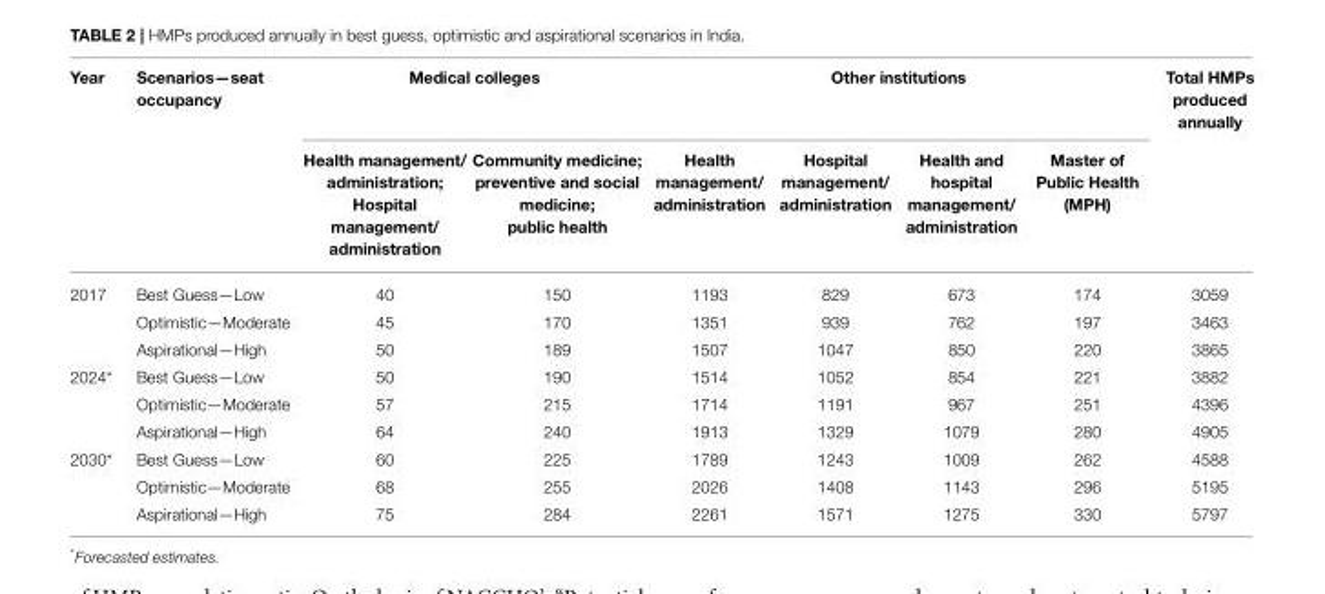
<table><thead><tr><td rowspan="2">Year</td><td rowspan="2">Scenarios—seat occupancy</td><td colspan="2">Medical colleges</td><td colspan="4">Other institutions</td><td rowspan="2">Total HMPs produced annually</td></tr><tr><td>Health management/ administration; Hospital management/ administration</td><td>Community medicine; preventive and social medicine; public health</td><td>Health management/ administration</td><td>Hospital management/ administration</td><td>Health and hospital management/ administration</td><td>Master of Public Health (MPH)</td></tr></thead><tbody><tr><td rowspan="3">2017</td><td>Best Guess—Low</td><td>40</td><td>150</td><td>1193</td><td>829</td><td>673</td><td>174</td><td>3059</td></tr><tr><td>Optimistic—Moderate</td><td>45</td><td>170</td><td>1351</td><td>939</td><td>762</td><td>197</td><td>3463</td></tr><tr><td>Aspirational—High</td><td>50</td><td>189</td><td>1507</td><td>1047</td><td>850</td><td>220</td><td>3865</td></tr><tr><td rowspan="3">2024*</td><td>Best Guess—Low</td><td>50</td><td>190</td><td>1514</td><td>1052</td><td>854</td><td>221</td><td>3882</td></tr><tr><td>Optimistic—Moderate</td><td>57</td><td>215</td><td>1714</td><td>1191</td><td>967</td><td>251</td><td>4396</td></tr><tr><td>Aspirational—High</td><td>64</td><td>240</td><td>1913</td><td>1329</td><td>1079</td><td>280</td><td>4905</td></tr><tr><td rowspan="3">2030*</td><td>Best Guess—Low</td><td>60</td><td>225</td><td>1789</td><td>1243</td><td>1009</td><td>262</td><td>4588</td></tr><tr><td>Optimistic—Moderate</td><td>68</td><td>255</td><td>2026</td><td>1408</td><td>1143</td><td>296</td><td>5195</td></tr><tr><td>Aspirational—High</td><td>75</td><td>284</td><td>2261</td><td>1571</td><td>1275</td><td>330</td><td>5797</td></tr></tbody></table>